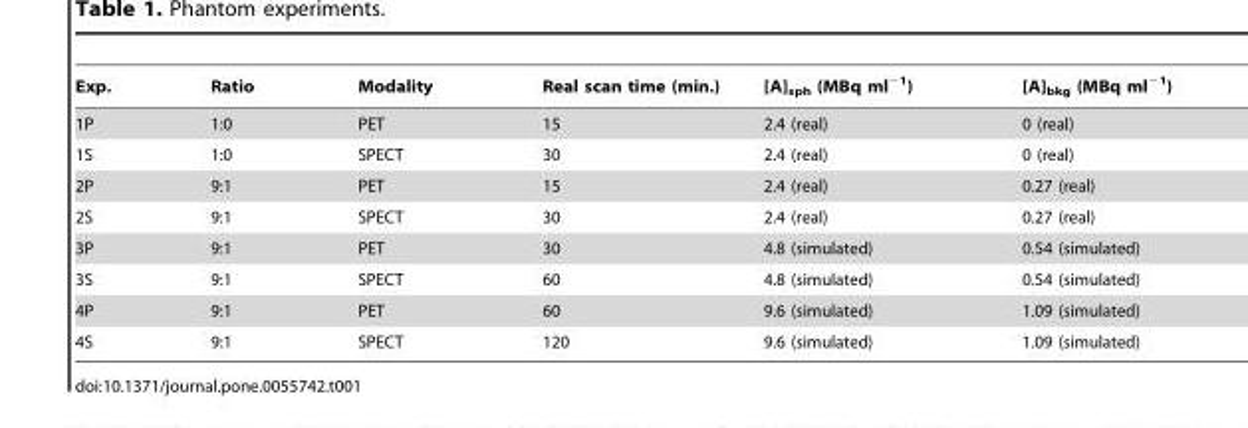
<table><thead><tr><td>Exp.</td><td>Ratio</td><td>Modality</td><td>Real scan time (min.)</td><td>[A]<sub>sph</sub> (MBq ml<sup>−1</sup>)</td><td>[A]<sub>bkg</sub> (MBq ml<sup>−1</sup>)</td></tr></thead><tbody><tr><td>1P</td><td>1:0</td><td>PET</td><td>15</td><td>2.4 (real)</td><td>0 (real)</td></tr><tr><td>1S</td><td>1:0</td><td>SPECT</td><td>30</td><td>2.4 (real)</td><td>0 (real)</td></tr><tr><td>2P</td><td>9:1</td><td>PET</td><td>15</td><td>2.4 (real)</td><td>0.27 (real)</td></tr><tr><td>2S</td><td>9:1</td><td>SPECT</td><td>30</td><td>2.4 (real)</td><td>0.27 (real)</td></tr><tr><td>3P</td><td>9:1</td><td>PET</td><td>30</td><td>4.8 (simulated)</td><td>0.54 (simulated)</td></tr><tr><td>3S</td><td>9:1</td><td>SPECT</td><td>60</td><td>4.8 (simulated)</td><td>0.54 (simulated)</td></tr><tr><td>4P</td><td>9:1</td><td>PET</td><td>60</td><td>9.6 (simulated)</td><td>1.09 (simulated)</td></tr><tr><td>4S</td><td>9:1</td><td>SPECT</td><td>120</td><td>9.6 (simulated)</td><td>1.09 (simulated)</td></tr></tbody></table>